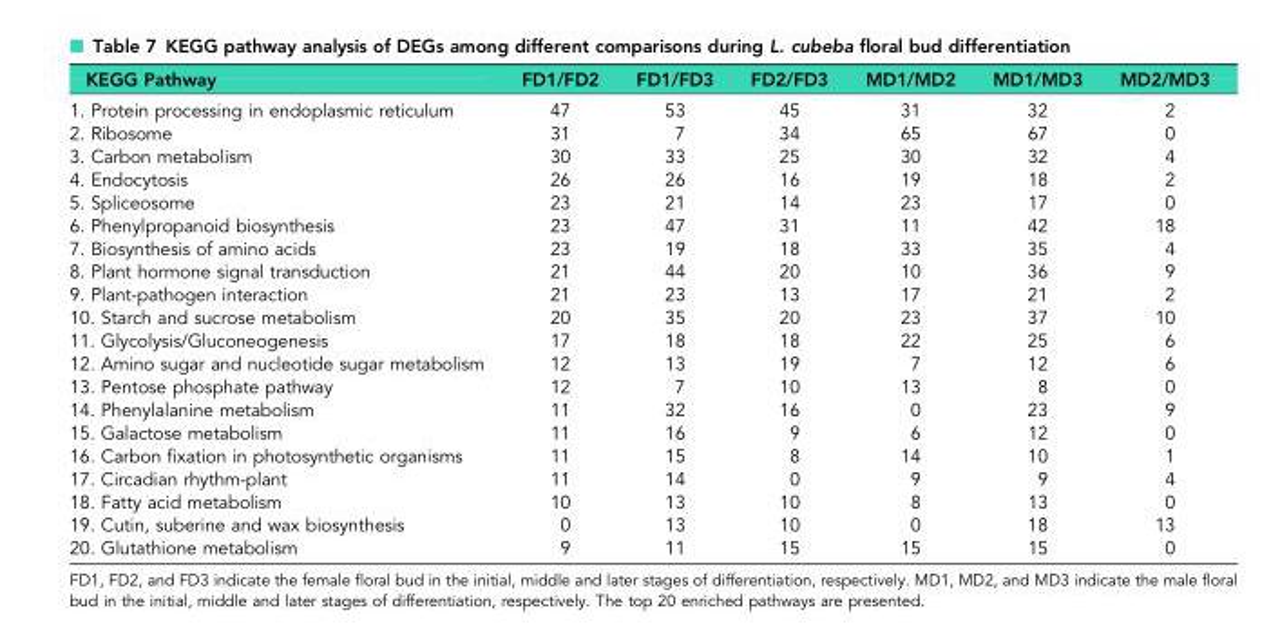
<table><thead><tr><td>KEGG Pathway</td><td>FD1/FD2</td><td>FD1/FD3</td><td>FD2/FD3</td><td>MD1/MD2</td><td>MD1/MD3</td><td>MD2/MD3</td></tr></thead><tbody><tr><td>1. Protein processing in endoplasmic reticulum</td><td>47</td><td>53</td><td>45</td><td>31</td><td>32</td><td>2</td></tr><tr><td>2. Ribosome</td><td>31</td><td>7</td><td>34</td><td>65</td><td>67</td><td>0</td></tr><tr><td>3. Carbon metabolism</td><td>30</td><td>33</td><td>25</td><td>30</td><td>32</td><td>4</td></tr><tr><td>4. Endocytosis</td><td>26</td><td>26</td><td>16</td><td>19</td><td>18</td><td>2</td></tr><tr><td>5. Spliceosome</td><td>23</td><td>21</td><td>14</td><td>23</td><td>17</td><td>0</td></tr><tr><td>6. Phenylpropanoid biosynthesis</td><td>23</td><td>47</td><td>31</td><td>11</td><td>42</td><td>18</td></tr><tr><td>7. Biosynthesis of amino acids</td><td>23</td><td>19</td><td>18</td><td>33</td><td>35</td><td>4</td></tr><tr><td>8. Plant hormone signal transduction</td><td>21</td><td>44</td><td>20</td><td>10</td><td>36</td><td>9</td></tr><tr><td>9. Plant-pathogen interaction</td><td>21</td><td>23</td><td>13</td><td>17</td><td>21</td><td>2</td></tr><tr><td>10. Starch and sucrose metabolism</td><td>20</td><td>35</td><td>20</td><td>23</td><td>37</td><td>10</td></tr><tr><td>11. Glycolysis/Gluconeogenesis</td><td>17</td><td>18</td><td>18</td><td>22</td><td>25</td><td>6</td></tr><tr><td>12. Amino sugar and nucleotide sugar metabolism</td><td>12</td><td>13</td><td>19</td><td>7</td><td>12</td><td>6</td></tr><tr><td>13. Pentose phosphate pathway</td><td>12</td><td>7</td><td>10</td><td>13</td><td>8</td><td>0</td></tr><tr><td>14. Phenylalanine metabolism</td><td>11</td><td>32</td><td>16</td><td>0</td><td>23</td><td>9</td></tr><tr><td>15. Galactose metabolism</td><td>11</td><td>16</td><td>9</td><td>6</td><td>12</td><td>0</td></tr><tr><td>16. Carbon fixation in photosynthetic organisms</td><td>11</td><td>15</td><td>8</td><td>14</td><td>10</td><td>1</td></tr><tr><td>17. Circadian rhythm-plant</td><td>11</td><td>14</td><td>0</td><td>9</td><td>9</td><td>4</td></tr><tr><td>18. Fatty acid metabolism</td><td>10</td><td>13</td><td>10</td><td>8</td><td>13</td><td>0</td></tr><tr><td>19. Cutin, suberine and wax biosynthesis</td><td>0</td><td>13</td><td>10</td><td>0</td><td>18</td><td>13</td></tr><tr><td>20. Glutathione metabolism</td><td>9</td><td>11</td><td>15</td><td>15</td><td>15</td><td>0</td></tr></tbody></table>